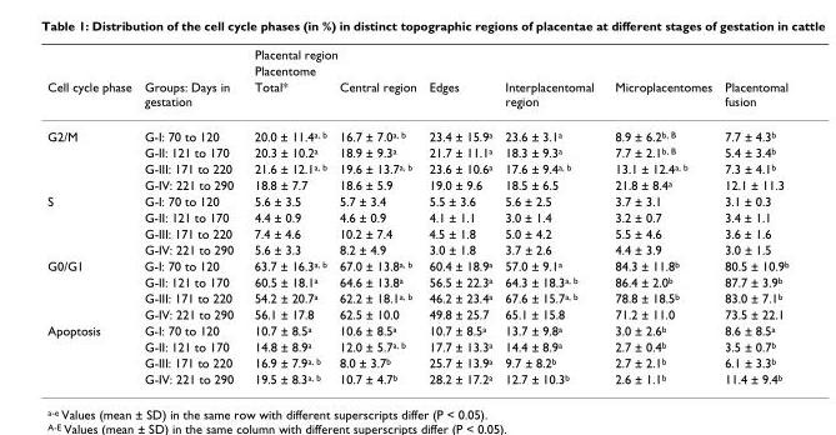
<table><thead><tr><td rowspan="3">Cell cycle phase</td><td rowspan="3">Groups: Days in gestation</td><td colspan="6">Placental region</td></tr><tr><td colspan="3">Placentome</td><td rowspan="2">Interplacentomal region</td><td rowspan="2">Microplacentomes</td><td rowspan="2">Placentomal fusion</td></tr><tr><td>Total*</td><td>Central region</td><td>Edges</td></tr></thead><tbody><tr><td rowspan="4">G2/M</td><td>G-I: 70 to 120</td><td>20.0 ± 11.4<sup>a, b</sup></td><td>16.7 ± 7.0<sup>a, b</sup></td><td>23.4 ± 15.9<sup>a</sup></td><td>23.6 ± 3.1<sup>a</sup></td><td>8.9 ± 6.2<sup>b, B</sup></td><td>7.7 ± 4.3<sup>b</sup></td></tr><tr><td>G-II: 121 to 170</td><td>20.3 ± 10.2<sup>a</sup></td><td>18.9 ± 9.3<sup>a</sup></td><td>21.7 ± 11.1<sup>a</sup></td><td>18.3 ± 9.3<sup>a</sup></td><td>7.7 ± 2.1<sup>b, B</sup></td><td>5.4 ± 3.4<sup>b</sup></td></tr><tr><td>G-III: 171 to 220</td><td>21.6 ± 12.1<sup>a, b</sup></td><td>19.6 ± 13.7<sup>a, b</sup></td><td>23.6 ± 10.6<sup>a</sup></td><td>17.6 ± 9.4<sup>a, b</sup></td><td>13.1 ± 12.4<sup>a, b</sup></td><td>7.3 ± 4.1<sup>b</sup></td></tr><tr><td>G-IV: 221 to 290</td><td>18.8 ± 7.7</td><td>18.6 ± 5.9</td><td>19.0 ± 9.6</td><td>18.5 ± 6.5</td><td>21.8 ± 8.4<sup>a</sup></td><td>12.1 ± 11.3</td></tr><tr><td rowspan="4">S</td><td>G-I: 70 to 120</td><td>5.6 ± 3.5</td><td>5.7 ± 3.4</td><td>5.5 ± 3.6</td><td>5.6 ± 2.5</td><td>3.7 ± 3.1</td><td>3.1 ± 0.3</td></tr><tr><td>G-II: 121 to 170</td><td>4.4 ± 0.9</td><td>4.6 ± 0.9</td><td>4.1 ± 1.1</td><td>3.0 ± 1.4</td><td>3.2 ± 0.7</td><td>3.4 ± 1.1</td></tr><tr><td>G-III: 171 to 220</td><td>7.4 ± 4.6</td><td>10.2 ± 7.4</td><td>4.5 ± 1.8</td><td>5.0 ± 4.2</td><td>5.5 ± 4.6</td><td>3.6 ± 1.6</td></tr><tr><td>G-IV: 221 to 290</td><td>5.6 ± 3.3</td><td>8.2 ± 4.9</td><td>3.0 ± 1.8</td><td>3.7 ± 2.6</td><td>4.4 ± 3.9</td><td>3.0 ± 1.5</td></tr><tr><td rowspan="4">G0/G1</td><td>G-I: 70 to 120</td><td>63.7 ± 16.3<sup>a, b</sup></td><td>67.0 ± 13.8<sup>a, b</sup></td><td>60.4 ± 18.9<sup>a</sup></td><td>57.0 ± 9.1<sup>a</sup></td><td>84.3 ± 11.8<sup>b</sup></td><td>80.5 ± 10.9<sup>b</sup></td></tr><tr><td>G-II: 121 to 170</td><td>60.5 ± 18.1<sup>a</sup></td><td>64.6 ± 13.8<sup>a</sup></td><td>56.5 ± 22.3<sup>a</sup></td><td>64.3 ± 18.3<sup>a, b</sup></td><td>86.4 ± 2.0<sup>b</sup></td><td>87.7 ± 3.9<sup>b</sup></td></tr><tr><td>G-III: 171 to 220</td><td>54.2 ± 20.7<sup>a</sup></td><td>62.2 ± 18.1<sup>a, b</sup></td><td>46.2 ± 23.4<sup>a</sup></td><td>67.6 ± 15.7<sup>a, b</sup></td><td>78.8 ± 18.5<sup>b</sup></td><td>83.0 ± 7.1<sup>b</sup></td></tr><tr><td>G-IV: 221 to 290</td><td>56.1 ± 17.8</td><td>62.5 ± 10.0</td><td>49.8 ± 25.7</td><td>65.1 ± 15.8</td><td>71.2 ± 11.0</td><td>73.5 ± 22.1</td></tr><tr><td rowspan="4">Apoptosis</td><td>G-I: 70 to 120</td><td>10.7 ± 8.5<sup>a</sup></td><td>10.6 ± 8.5<sup>a</sup></td><td>10.7 ± 8.5<sup>a</sup></td><td>13.7 ± 9.8<sup>a</sup></td><td>3.0 ± 2.6<sup>b</sup></td><td>8.6 ± 8.5<sup>a</sup></td></tr><tr><td>G-II: 121 to 170</td><td>14.8 ± 8.9<sup>a</sup></td><td>12.0 ± 5.7<sup>a, b</sup></td><td>17.7 ± 13.3<sup>a</sup></td><td>14.4 ± 8.9<sup>a</sup></td><td>2.7 ± 0.4<sup>b</sup></td><td>3.5 ± 0.7<sup>b</sup></td></tr><tr><td>G-III: 171 to 220</td><td>16.9 ± 7.9<sup>a, b</sup></td><td>8.0 ± 3.7<sup>b</sup></td><td>25.7 ± 13.9<sup>a</sup></td><td>9.7 ± 8.2<sup>b</sup></td><td>2.7 ± 2.1<sup>b</sup></td><td>6.1 ± 3.3<sup>b</sup></td></tr><tr><td>G-IV: 221 to 290</td><td>19.5 ± 8.3<sup>a, b</sup></td><td>10.7 ± 4.7<sup>b</sup></td><td>28.2 ± 17.2<sup>a</sup></td><td>12.7 ± 10.3<sup>b</sup></td><td>2.6 ± 1.1<sup>b</sup></td><td>11.4 ± 9.4<sup>b</sup></td></tr></tbody></table>